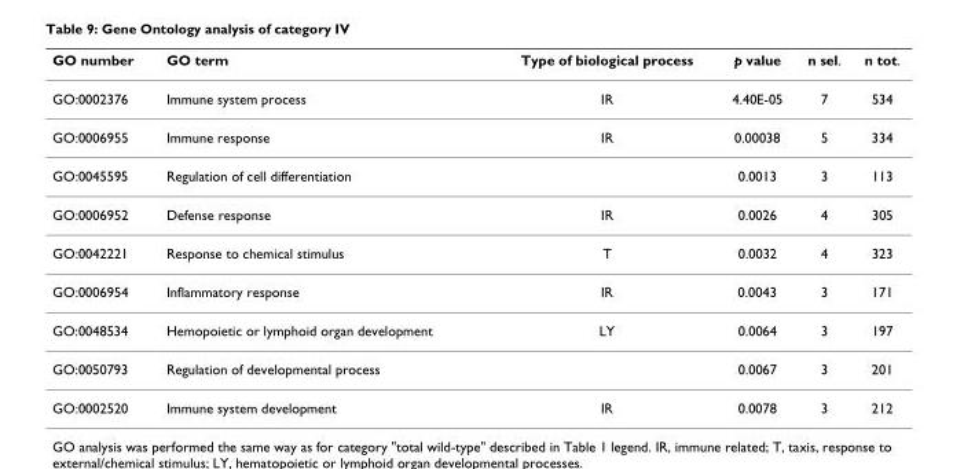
<table><thead><tr><td>GO number</td><td>GO term</td><td>Type of biological process</td><td>p value</td><td>n sel.</td><td>n tot.</td></tr></thead><tbody><tr><td>GO:0002376</td><td>Immune system process</td><td>IR</td><td>4.40E-05</td><td>7</td><td>534</td></tr><tr><td>GO:0006955</td><td>Immune response</td><td>IR</td><td>0.00038</td><td>5</td><td>334</td></tr><tr><td>GO:0045595</td><td>Regulation of cell differentiation</td><td></td><td>0.0013</td><td>3</td><td>113</td></tr><tr><td>GO:0006952</td><td>Defense response</td><td>IR</td><td>0.0026</td><td>4</td><td>305</td></tr><tr><td>GO:0042221</td><td>Response to chemical stimulus</td><td>T</td><td>0.0032</td><td>4</td><td>323</td></tr><tr><td>GO:0006954</td><td>Inflammatory response</td><td>IR</td><td>0.0043</td><td>3</td><td>171</td></tr><tr><td>GO:0048534</td><td>Hemopoietic or lymphoid organ development</td><td>LY</td><td>0.0064</td><td>3</td><td>197</td></tr><tr><td>GO:0050793</td><td>Regulation of developmental process</td><td></td><td>0.0067</td><td>3</td><td>201</td></tr><tr><td>GO:0002520</td><td>Immune system development</td><td>IR</td><td>0.0078</td><td>3</td><td>212</td></tr></tbody></table>